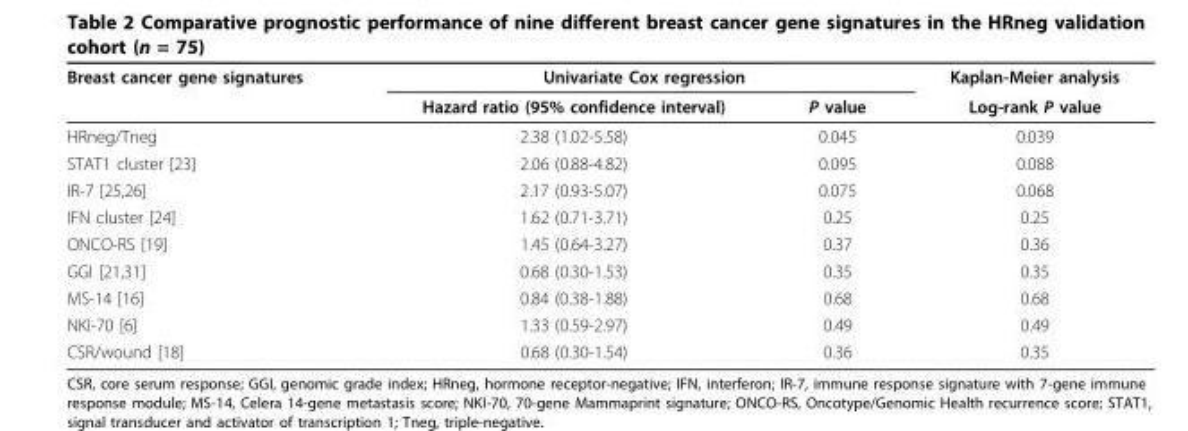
<table><thead><tr><td rowspan="2">Breast cancer gene signatures</td><td colspan="2">Univariate Cox regression</td><td rowspan="2">Kaplan-Meier analysis Log-rank P value</td></tr><tr><td>Hazard ratio (95% confidence interval)</td><td>P value</td></tr></thead><tbody><tr><td>HRneg/Tneg</td><td>2.38 (1.02-5.58)</td><td>0.045</td><td>0.039</td></tr><tr><td>STAT1 cluster [23]</td><td>2.06 (0.88-4.82)</td><td>0.095</td><td>0.088</td></tr><tr><td>IR-7 [25,26]</td><td>2.17 (0.93-5.07)</td><td>0.075</td><td>0.068</td></tr><tr><td>IFN cluster [24]</td><td>1.62 (0.71-3.71)</td><td>0.25</td><td>0.25</td></tr><tr><td>ONCO-RS [19]</td><td>1.45 (0.64-3.27)</td><td>0.37</td><td>0.36</td></tr><tr><td>GGI [21,31]</td><td>0.68 (0.30-1.53)</td><td>0.35</td><td>0.35</td></tr><tr><td>MS-14 [16]</td><td>0.84 (0.38-1.88)</td><td>0.68</td><td>0.68</td></tr><tr><td>NKI-70 [6]</td><td>1.33 (0.59-2.97)</td><td>0.49</td><td>0.49</td></tr><tr><td>CSR/wound [18]</td><td>0.68 (0.30-1.54)</td><td>0.36</td><td>0.35</td></tr></tbody></table>